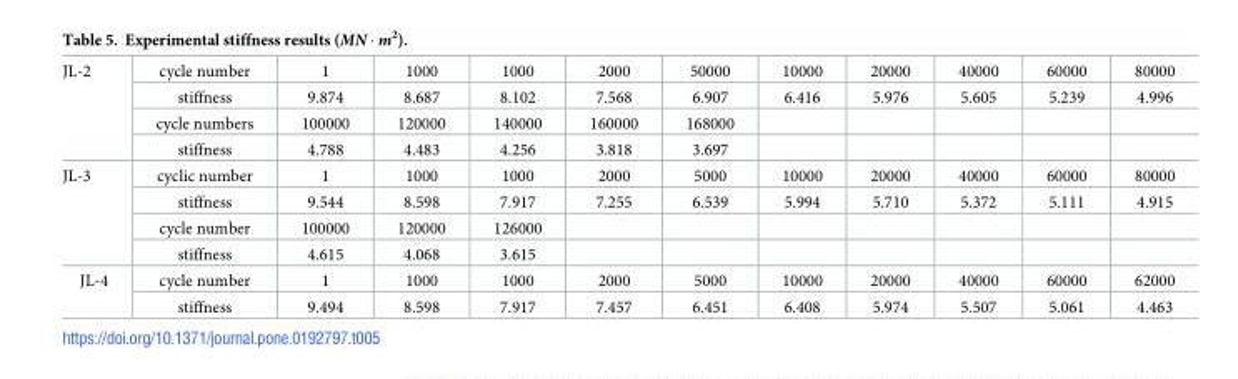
<table><tbody><tr><td rowspan="4">JL-2</td><td>cycle number</td><td>1</td><td>1000</td><td>1000</td><td>2000</td><td>50000</td><td>10000</td><td>20000</td><td>40000</td><td>60000</td><td>80000</td></tr><tr><td>stiffness</td><td>9.874</td><td>8.687</td><td>8.102</td><td>7.568</td><td>6.907</td><td>6.416</td><td>5.976</td><td>5.605</td><td>5.239</td><td>4.996</td></tr><tr><td>cycle numbers</td><td>100000</td><td>120000</td><td>140000</td><td>160000</td><td>168000</td><td></td><td></td><td></td><td></td><td></td></tr><tr><td>stiffness</td><td>4.788</td><td>4.483</td><td>4.256</td><td>3.818</td><td>3.697</td><td></td><td></td><td></td><td></td><td></td></tr><tr><td rowspan="4">JL-3</td><td>cyclic number</td><td>1</td><td>1000</td><td>1000</td><td>2000</td><td>5000</td><td>10000</td><td>20000</td><td>40000</td><td>60000</td><td>80000</td></tr><tr><td>stiffness</td><td>9.544</td><td>8.598</td><td>7.917</td><td>7.255</td><td>6.539</td><td>5.994</td><td>5.710</td><td>5.372</td><td>5.111</td><td>4.915</td></tr><tr><td>cycle number</td><td>100000</td><td>120000</td><td>126000</td><td></td><td></td><td></td><td></td><td></td><td></td><td></td></tr><tr><td>stiffness</td><td>4.615</td><td>4.068</td><td>3.615</td><td></td><td></td><td></td><td></td><td></td><td></td><td></td></tr><tr><td rowspan="2">JL-4</td><td>cycle number</td><td>1</td><td>1000</td><td>1000</td><td>2000</td><td>5000</td><td>10000</td><td>20000</td><td>40000</td><td>60000</td><td>62000</td></tr><tr><td>stiffness</td><td>9.494</td><td>8.598</td><td>7.917</td><td>7.457</td><td>6.451</td><td>6.408</td><td>5.974</td><td>5.507</td><td>5.061</td><td>4.463</td></tr></tbody></table>